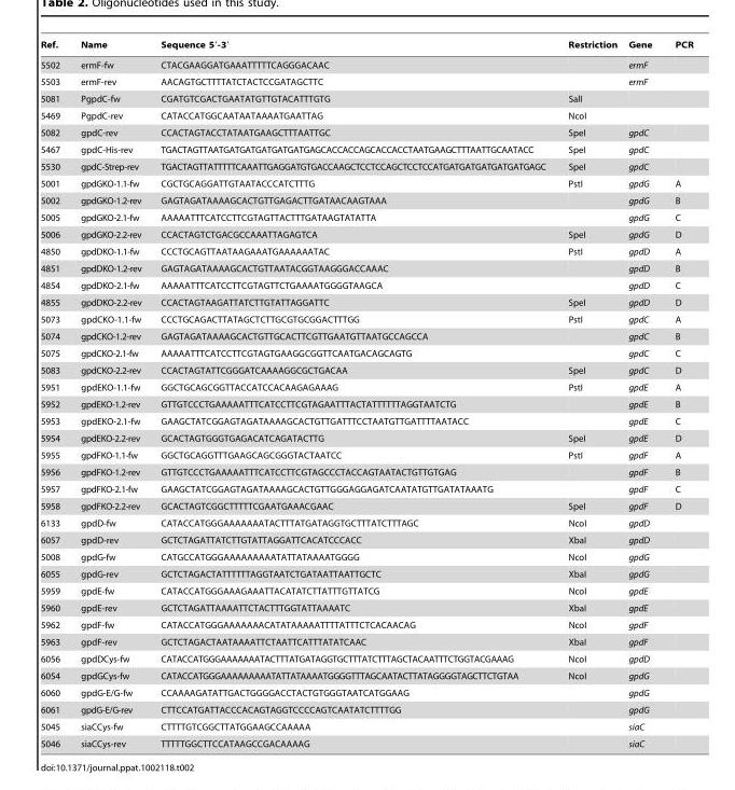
<table><thead><tr><td>Ref.</td><td>Name</td><td>Sequence 5′-3′</td><td>Restriction</td><td>Gene</td><td>PCR</td></tr></thead><tbody><tr><td>5502</td><td>ermF-fw</td><td>CTACGAAGGATGAAATTTTTCAGGGACAAC</td><td></td><td>ermF</td><td></td></tr><tr><td>5503</td><td>ermF-rev</td><td>AACAGTGCTTTTATCTACTCCGATAGCTTC</td><td></td><td>ermF</td><td></td></tr><tr><td>5081</td><td>PgpdC-fw</td><td>CGATGTCGACTGAATATGTTGTACATTTGTG</td><td>SalI</td><td></td><td></td></tr><tr><td>5469</td><td>PgpdC-rev</td><td>CATACCATGGCAATAATAAAATGAATTAG</td><td>NcoI</td><td></td><td></td></tr><tr><td>5082</td><td>gpdC-rev</td><td>CCACTAGTACCTATAATGAAGCTTTAATTGC</td><td>SpeI</td><td>gpdC</td><td></td></tr><tr><td>5467</td><td>gpdC-His-rev</td><td>TGACTAGTTAATGATGATGATGATGATGAGCACCACCAGCACCACCTAATGAAGCTTTAATTGCAATACC</td><td>SpeI</td><td>gpdC</td><td></td></tr><tr><td>5530</td><td>gpdC-Strep-rev</td><td>TGACTAGTTATTTTTCAAATTGAGGATGTGACCAAGCTCCTCCAGCTCCTCCATGATGATGATGATGATGAGC</td><td>SpeI</td><td>gpdC</td><td></td></tr><tr><td>5001</td><td>gpdGKO-1.1-fw</td><td>CGCTGCAGGATTGTAATACCCATCTTTG</td><td>PstI</td><td>gpdG</td><td>A</td></tr><tr><td>5002</td><td>gpdGKO-1.2-rev</td><td>GAGTAGATAAAAGCACTGTTGAGACTTGATAACAAGTAAA</td><td></td><td>gpdG</td><td>B</td></tr><tr><td>5005</td><td>gpdGKO-2.1-fw</td><td>AAAAATTTCATCCTTCGTAGTTACTTTGATAAGTATATTA</td><td></td><td>gpdG</td><td>C</td></tr><tr><td>5006</td><td>gpdGKO-2.2-rev</td><td>CCACTAGTCTGACGCCAAATTAGAGTCA</td><td>SpeI</td><td>gpdG</td><td>D</td></tr><tr><td>4850</td><td>gpdDKO-1.1-fw</td><td>CCCTGCAGTTAATAAGAAATGAAAAAATAC</td><td>PstI</td><td>gpdD</td><td>A</td></tr><tr><td>4851</td><td>gpdDKO-1.2-rev</td><td>GAGTAGATAAAAGCACTGTTAATACGGTAAGGGACCAAAC</td><td></td><td>gpdD</td><td>B</td></tr><tr><td>4854</td><td>gpdDKO-2.1-fw</td><td>AAAAATTTCATCCTTCGTAGTTCTGAAAATGGGGTAAGCA</td><td></td><td>gpdD</td><td>C</td></tr><tr><td>4855</td><td>gpdDKO-2.2-rev</td><td>CCACTAGTAAGATTATCTTGTATTAGGATTC</td><td>SpeI</td><td>gpdD</td><td>D</td></tr><tr><td>5073</td><td>gpdCKO-1.1-fw</td><td>CCCTGCAGACTTATAGCTCTTGCGTGCGGACTTTGG</td><td>PstI</td><td>gpdC</td><td>A</td></tr><tr><td>5074</td><td>gpdCKO-1.2-rev</td><td>GAGTAGATAAAAGCACTGTTGCACTTCGTTGAATGTTAATGCCAGCCA</td><td></td><td>gpdC</td><td>B</td></tr><tr><td>5075</td><td>gpdCKO-2.1-fw</td><td>AAAAATTTCATCCTTCGTAGTGAAGGCGGTTCAATGACAGCAGTG</td><td></td><td>gpdC</td><td>C</td></tr><tr><td>5083</td><td>gpdCKO-2.2-rev</td><td>CCACTAGTATTCGGGATCAAAAGGCGCTGACAA</td><td>SpeI</td><td>gpdC</td><td>D</td></tr><tr><td>5951</td><td>gpdEKO-1.1-fw</td><td>GGCTGCAGCGGTTACCATCCACAAGAGAAAG</td><td>PstI</td><td>gpdE</td><td>A</td></tr><tr><td>5952</td><td>gpdEKO-1.2-rev</td><td>GTTGTCCCTGAAAAATTTCATCCTTCGTAGAATTTACTATTTTTTAGGTAATCTG</td><td></td><td>gpdE</td><td>B</td></tr><tr><td>5953</td><td>gpdEKO-2.1-fw</td><td>GAAGCTATCGGAGTAGATAAAAGCACTGTTGATTTCCTAATGTTGATTTTAATACC</td><td></td><td>gpdE</td><td>C</td></tr><tr><td>5954</td><td>gpdEKO-2.2-rev</td><td>GCACTAGTGGGTGAGACATCAGATACTTG</td><td>SpeI</td><td>gpdE</td><td>D</td></tr><tr><td>5955</td><td>gpdFKO-1.1-fw</td><td>GGCTGCAGGTTTGAAGCAGCGGGTACTAATCC</td><td>PstI</td><td>gpdF</td><td>A</td></tr><tr><td>5956</td><td>gpdFKO-1.2-rev</td><td>GTTGTCCCTGAAAAATTTCATCCTTCGTAGCCCTACCAGTAATACTGTTGTGAG</td><td></td><td>gpdF</td><td>B</td></tr><tr><td>5957</td><td>gpdFKO-2.1-fw</td><td>GAAGCTATCGGAGTAGATAAAAGCACTGTTGGGAGGAGATCAATATGTTGATATAAATG</td><td></td><td>gpdF</td><td>C</td></tr><tr><td>5958</td><td>gpdFKO-2.2-rev</td><td>GCACTAGTCGGCTTTTTCGAATGAAACGAAC</td><td>SpeI</td><td>gpdF</td><td>D</td></tr><tr><td>6133</td><td>gpdD-fw</td><td>CATACCATGGGAAAAAAATACTTTATGATAGGTGCTTTATCTTTAGC</td><td>NcoI</td><td>gpdD</td><td></td></tr><tr><td>6057</td><td>gpdD-rev</td><td>GCTCTAGATTATCTTGTATTAGGATTCACATCCCACC</td><td>XbaI</td><td>gpdD</td><td></td></tr><tr><td>5008</td><td>gpdG-fw</td><td>CATGCCATGGGAAAAAAAAATATTATAAAATGGGG</td><td>NcoI</td><td>gpdG</td><td></td></tr><tr><td>6055</td><td>gpdG-rev</td><td>GCTCTAGACTATTTTTTAGGTAATCTGATAATTAATTGCTC</td><td>XbaI</td><td>gpdG</td><td></td></tr><tr><td>5959</td><td>gpdE-fw</td><td>CATACCATGGGAAAGAAATTACATATCTTATTTGTTATCG</td><td>NcoI</td><td>gpdE</td><td></td></tr><tr><td>5960</td><td>gpdE-rev</td><td>GCTCTAGATTAAAATTCTACTTTGGTATTAAAATC</td><td>XbaI</td><td>gpdE</td><td></td></tr><tr><td>5962</td><td>gpdF-fw</td><td>CATACCATGGGAAAAAAACATATAAAAATTTTATTTCTCACAACAG</td><td>NcoI</td><td>gpdF</td><td></td></tr><tr><td>5963</td><td>gpdF-rev</td><td>GCTCTAGACTAATAAAATTCTAATTCATTTATATCAAC</td><td>XbaI</td><td>gpdF</td><td></td></tr><tr><td>6056</td><td>gpdDCys-fw</td><td>CATACCATGGGAAAAAAATACTTTATGATAGGTGCTTTATCTTTAGCTACAATTTCTGGTACGAAAG</td><td>NcoI</td><td>gpdD</td><td></td></tr><tr><td>6054</td><td>gpdGCys-fw</td><td>CATACCATGGGAAAAAAAAATATTATAAAATGGGGTTTAGCAATACTTATAGGGGTAGCTTCTGTAA</td><td>NcoI</td><td>gpdG</td><td></td></tr><tr><td>6060</td><td>gpdG-E/G-fw</td><td>CCAAAAGATATTGACTGGGGACCTACTGTGGGTAATCATGGAAG</td><td></td><td>gpdG</td><td></td></tr><tr><td>6061</td><td>gpdG-E/G-rev</td><td>CTTCCATGATTACCCACAGTAGGTCCCCAGTCAATATCTTTTGG</td><td></td><td>gpdG</td><td></td></tr><tr><td>5045</td><td>siaCCys-fw</td><td>CTTTTGTCGGCTTATGGAAGCCAAAAA</td><td></td><td>siaC</td><td></td></tr><tr><td>5046</td><td>siaCCys-rev</td><td>TTTTTGGCTTCCATAAGCCGACAAAAG</td><td></td><td>siaC</td><td></td></tr></tbody></table>